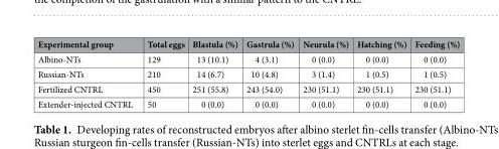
<table><thead><tr><td>Experimental group</td><td>Total eggs</td><td>Blastula (%)</td><td>Gastrula (%)</td><td>Neurula (%)</td><td>Hatching (%)</td><td>Feeding (%)</td></tr></thead><tbody><tr><td>Albino-NTs</td><td>129</td><td>13 (10.1)</td><td>4 (3.1)</td><td>0 (0.0)</td><td>0 (0.0)</td><td>0 (0.0)</td></tr><tr><td>Russian-NTs</td><td>210</td><td>14 (6.7)</td><td>10 (4.8)</td><td>3 (1.4)</td><td>1 (0.5)</td><td>1 (0.5)</td></tr><tr><td>Fertilized CNTRL</td><td>450</td><td>251 (55.8)</td><td>243 (54.0)</td><td>230 (51.1)</td><td>230 (51.1)</td><td>230 (51.1)</td></tr><tr><td>Extender-injected CNTRL</td><td>50</td><td>0 (0.0)</td><td>0 (0.0)</td><td>0 (0.0)</td><td>0 (0.0)</td><td>0 (0.0)</td></tr></tbody></table>